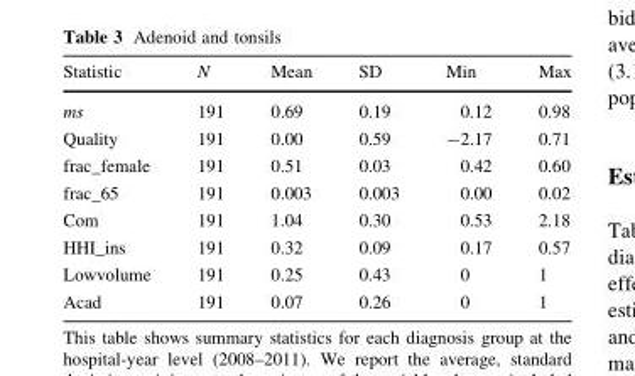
<table><thead><tr><td>Statistic</td><td>N</td><td>Mean</td><td>SD</td><td>Min</td><td>Max</td></tr></thead><tbody><tr><td>ms</td><td>191</td><td>0.69</td><td>0.19</td><td>0.12</td><td>0.98</td></tr><tr><td>Quality</td><td>191</td><td>0.00</td><td>0.59</td><td>-2.17</td><td>0.71</td></tr><tr><td>frac_female</td><td>191</td><td>0.51</td><td>0.03</td><td>0.42</td><td>0.60</td></tr><tr><td>frac_65</td><td>191</td><td>0.003</td><td>0.003</td><td>0.00</td><td>0.02</td></tr><tr><td>Com</td><td>191</td><td>1.04</td><td>0.30</td><td>0.53</td><td>2.18</td></tr><tr><td>HHI_ins</td><td>191</td><td>0.32</td><td>0.09</td><td>0.17</td><td>0.57</td></tr><tr><td>Lowvolume</td><td>191</td><td>0.25</td><td>0.43</td><td>0</td><td>1</td></tr><tr><td>Acad</td><td>191</td><td>0.07</td><td>0.26</td><td>0</td><td>1</td></tr></tbody></table>